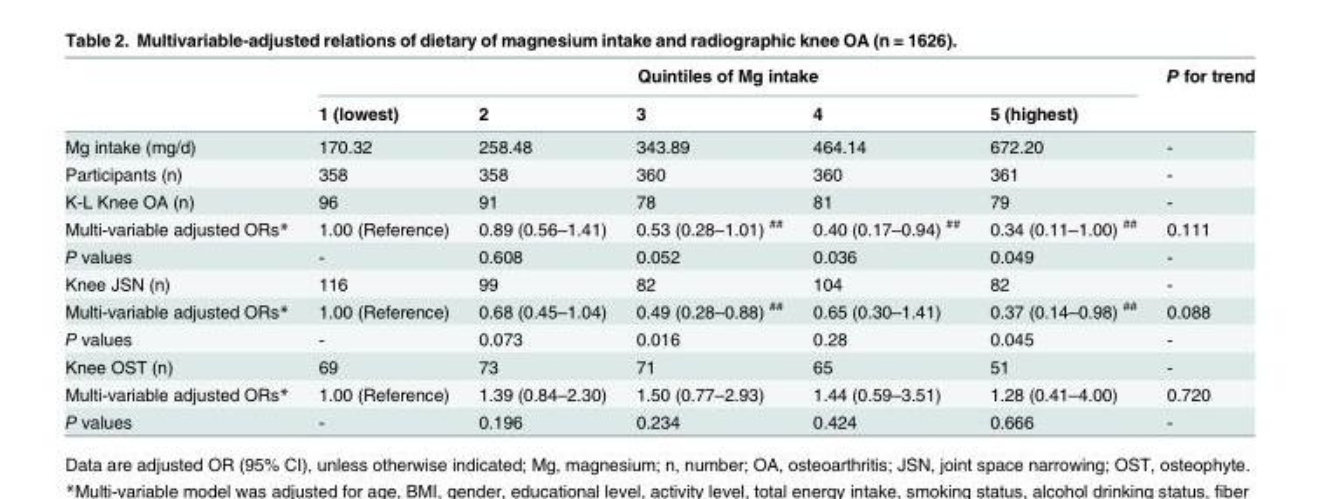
<table><thead><tr><td rowspan="2"></td><td colspan="5">Quintiles of Mg intake</td><td rowspan="2">P for trend</td></tr><tr><td>1 (lowest)</td><td>2</td><td>3</td><td>4</td><td>5 (highest)</td></tr></thead><tbody><tr><td>Mg intake (mg/d)</td><td>170.32</td><td>258.48</td><td>343.89</td><td>464.14</td><td>672.20</td><td>-</td></tr><tr><td>Participants (n)</td><td>358</td><td>358</td><td>360</td><td>360</td><td>361</td><td>-</td></tr><tr><td>K-L Knee OA (n)</td><td>96</td><td>91</td><td>78</td><td>81</td><td>79</td><td>-</td></tr><tr><td>Multi-variable adjusted ORs*</td><td>1.00 (Reference)</td><td>0.89 (0.56–1.41)</td><td>0.53 (0.28–1.01) <sup>##</sup></td><td>0.40 (0.17–0.94) <sup>##</sup></td><td>0.34 (0.11–1.00) <sup>##</sup></td><td>0.111</td></tr><tr><td>P values</td><td>-</td><td>0.608</td><td>0.052</td><td>0.036</td><td>0.049</td><td>-</td></tr><tr><td>Knee JSN (n)</td><td>116</td><td>99</td><td>82</td><td>104</td><td>82</td><td>-</td></tr><tr><td>Multi-variable adjusted ORs*</td><td>1.00 (Reference)</td><td>0.68 (0.45–1.04)</td><td>0.49 (0.28–0.88) <sup>##</sup></td><td>0.65 (0.30–1.41)</td><td>0.37 (0.14–0.98) <sup>##</sup></td><td>0.088</td></tr><tr><td>P values</td><td>-</td><td>0.073</td><td>0.016</td><td>0.28</td><td>0.045</td><td>-</td></tr><tr><td>Knee OST (n)</td><td>69</td><td>73</td><td>71</td><td>65</td><td>51</td><td>-</td></tr><tr><td>Multi-variable adjusted ORs*</td><td>1.00 (Reference)</td><td>1.39 (0.84–2.30)</td><td>1.50 (0.77–2.93)</td><td>1.44 (0.59–3.51)</td><td>1.28 (0.41–4.00)</td><td>0.720</td></tr><tr><td>P values</td><td>-</td><td>0.196</td><td>0.234</td><td>0.424</td><td>0.666</td><td>-</td></tr></tbody></table>